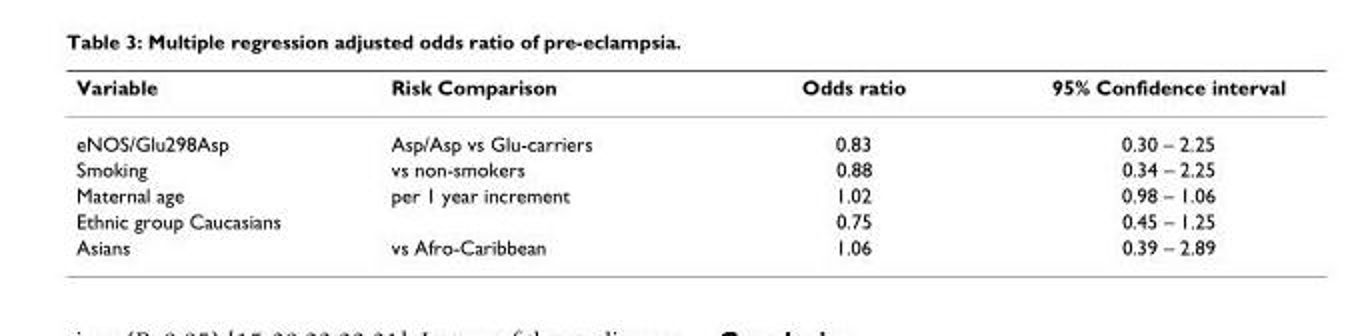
<table><thead><tr><td>Variable</td><td>Risk Comparison</td><td>Odds ratio</td><td>95% Confidence interval</td></tr></thead><tbody><tr><td>eNOS/Glu298Asp</td><td>Asp/Asp vs Glu-carriers</td><td>0.83</td><td>0.30 – 2.25</td></tr><tr><td>Smoking</td><td>vs non-smokers</td><td>0.88</td><td>0.34 – 2.25</td></tr><tr><td>Maternal age</td><td>per 1 year increment</td><td>1.02</td><td>0.98 – 1.06</td></tr><tr><td>Ethnic group Caucasians</td><td></td><td>0.75</td><td>0.45 – 1.25</td></tr><tr><td>Asians</td><td>vs Afro-Caribbean</td><td>1.06</td><td>0.39 – 2.89</td></tr></tbody></table>